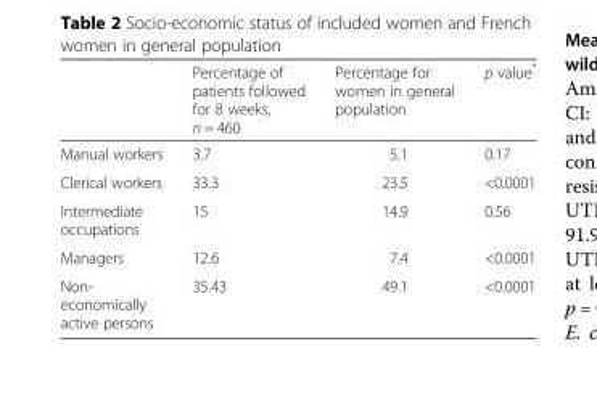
<table><thead><tr><td></td><td>Percentage of patients followed for 8 weeks, n = 460</td><td>Percentage for women in general population</td><td>p value*</td></tr></thead><tbody><tr><td>Manual workers</td><td>3.7</td><td>5.1</td><td>0.17</td></tr><tr><td>Clerical workers</td><td>33.3</td><td>23.5</td><td>&lt;0.0001</td></tr><tr><td>Intermediate occupations</td><td>15</td><td>14.9</td><td>0.56</td></tr><tr><td>Managers</td><td>12.6</td><td>7.4</td><td>&lt;0.0001</td></tr><tr><td>Non- economically active persons</td><td>35.43</td><td>49.1</td><td>&lt;0.0001</td></tr></tbody></table>